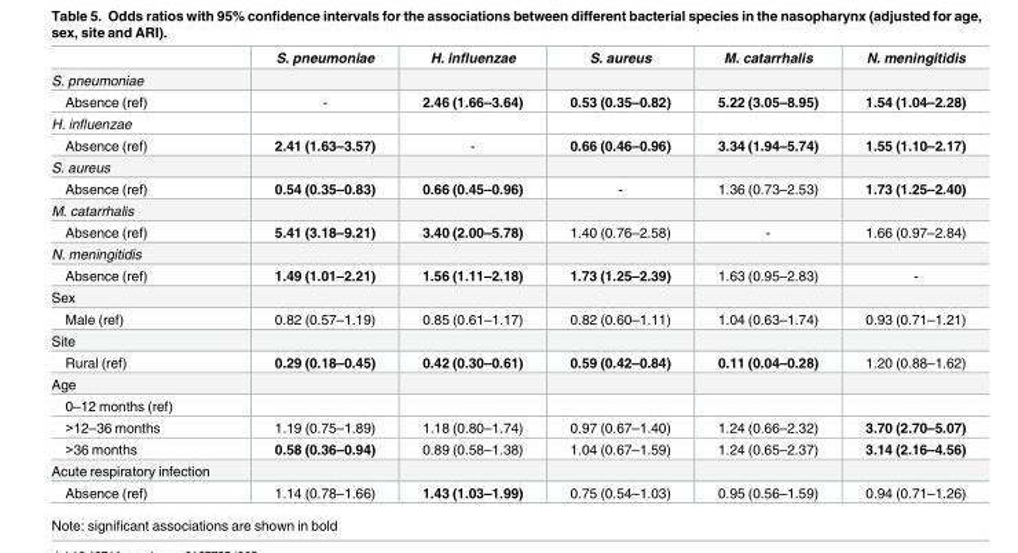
<table><thead><tr><td></td><td>S. pneumoniae</td><td>H. influenzae</td><td>S. aureus</td><td>M. catarrhalis</td><td>N. meningitidis</td></tr></thead><tbody><tr><td colspan="6">S. pneumoniae</td></tr><tr><td>Absence (ref)</td><td>-</td><td>2.46 (1.66–3.64)</td><td>0.53 (0.35–0.82)</td><td>5.22 (3.05–8.95)</td><td>1.54 (1.04–2.28)</td></tr><tr><td colspan="6">H. influenzae</td></tr><tr><td>Absence (ref)</td><td>2.41 (1.63–3.57)</td><td>-</td><td>0.66 (0.46–0.96)</td><td>3.34 (1.94–5.74)</td><td>1.55 (1.10–2.17)</td></tr><tr><td colspan="6">S. aureus</td></tr><tr><td>Absence (ref)</td><td>0.54 (0.35–0.83)</td><td>0.66 (0.45–0.96)</td><td>-</td><td>1.36 (0.73–2.53)</td><td>1.73 (1.25–2.40)</td></tr><tr><td colspan="6">M. catarrhalis</td></tr><tr><td>Absence (ref)</td><td>5.41 (3.18–9.21)</td><td>3.40 (2.00–5.78)</td><td>1.40 (0.76–2.58)</td><td>-</td><td>1.66 (0.97–2.84)</td></tr><tr><td colspan="6">N. meningitidis</td></tr><tr><td>Absence (ref)</td><td>1.49 (1.01–2.21)</td><td>1.56 (1.11–2.18)</td><td>1.73 (1.25–2.39)</td><td>1.63 (0.95–2.83)</td><td>-</td></tr><tr><td colspan="6">Sex</td></tr><tr><td>Male (ref)</td><td>0.82 (0.57–1.19)</td><td>0.85 (0.61–1.17)</td><td>0.82 (0.60–1.11)</td><td>1.04 (0.63–1.74)</td><td>0.93 (0.71–1.21)</td></tr><tr><td colspan="6">Site</td></tr><tr><td>Rural (ref)</td><td>0.29 (0.18–0.45)</td><td>0.42 (0.30–0.61)</td><td>0.59 (0.42–0.84)</td><td>0.11 (0.04–0.28)</td><td>1.20 (0.88–1.62)</td></tr><tr><td colspan="6">Age</td></tr><tr><td colspan="6">0–12 months (ref)</td></tr><tr><td>&gt;12–36 months</td><td>1.19 (0.75–1.89)</td><td>1.18 (0.80–1.74)</td><td>0.97 (0.67–1.40)</td><td>1.24 (0.66–2.32)</td><td>3.70 (2.70–5.07)</td></tr><tr><td>&gt;36 months</td><td>0.58 (0.36–0.94)</td><td>0.89 (0.58–1.38)</td><td>1.04 (0.67–1.59)</td><td>1.24 (0.65–2.37)</td><td>3.14 (2.16–4.56)</td></tr><tr><td colspan="6">Acute respiratory infection</td></tr><tr><td>Absence (ref)</td><td>1.14 (0.78–1.66)</td><td>1.43 (1.03–1.99)</td><td>0.75 (0.54–1.03)</td><td>0.95 (0.56–1.59)</td><td>0.94 (0.71–1.26)</td></tr></tbody></table>